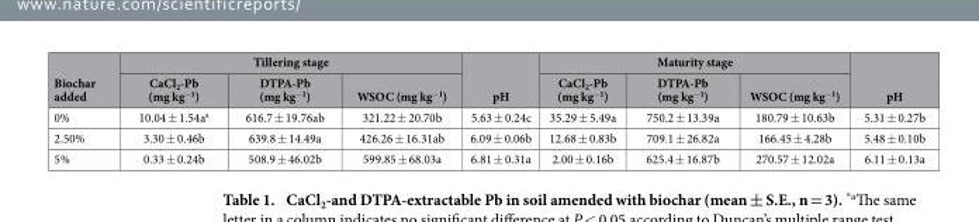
<table><thead><tr><td rowspan="2">Biochar added</td><td colspan="3">Tillering stage</td><td rowspan="2">pH</td><td colspan="3">Maturity stage</td><td rowspan="2">pH</td></tr><tr><td>CaCl<sub>2</sub>-Pb (mg kg<sup>−1</sup>)</td><td>DTPA-Pb (mg kg<sup>−1</sup>)</td><td>WSOC (mg kg<sup>−1</sup>)</td><td>CaCl<sub>2</sub>-Pb (mg kg<sup>−1</sup>)</td><td>DTPA-Pb (mg kg<sup>−1</sup>)</td><td>WSOC (mg kg<sup>−1</sup>)</td></tr></thead><tbody><tr><td>0%</td><td>10.04 ± 1.54a<sup>a</sup></td><td>616.7 ± 19.76ab</td><td>321.22 ± 20.70b</td><td>5.63 ± 0.24c</td><td>35.29 ± 5.49a</td><td>750.2 ± 13.39a</td><td>180.79 ± 10.63b</td><td>5.31 ± 0.27b</td></tr><tr><td>2.50%</td><td>3.30 ± 0.46b</td><td>639.8 ± 14.49a</td><td>426.26 ± 16.31ab</td><td>6.09 ± 0.06b</td><td>12.68 ± 0.83b</td><td>709.1 ± 26.82a</td><td>166.45 ± 4.28b</td><td>5.48 ± 0.10b</td></tr><tr><td>5%</td><td>0.33 ± 0.24b</td><td>508.9 ± 46.02b</td><td>599.85 ± 68.03a</td><td>6.81 ± 0.31a</td><td>2.00 ± 0.16b</td><td>625.4 ± 16.87b</td><td>270.57 ± 12.02a</td><td>6.11 ± 0.13a</td></tr></tbody></table>